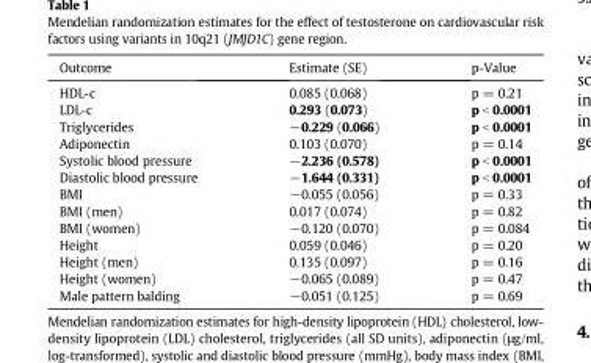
<table><thead><tr><td>Outcome</td><td>Estimate (SE)</td><td>p-Value</td></tr></thead><tbody><tr><td>HDL-c</td><td>0.085 (0.068)</td><td>p = 0.21</td></tr><tr><td>LDL-c</td><td>0.293 (0.073)</td><td>p &lt; 0.0001</td></tr><tr><td>Triglycerides</td><td>−0.229 (0.066)</td><td>p &lt; 0.0001</td></tr><tr><td>Adiponectin</td><td>0.103 (0.070)</td><td>p = 0.14</td></tr><tr><td>Systolic blood pressure</td><td>−2.236 (0.578)</td><td>p &lt; 0.0001</td></tr><tr><td>Diastolic blood pressure</td><td>−1.644 (0.331)</td><td>p &lt; 0.0001</td></tr><tr><td>BMI</td><td>−0.055 (0.056)</td><td>p = 0.33</td></tr><tr><td>BMI (men)</td><td>0.017 (0.074)</td><td>p = 0.82</td></tr><tr><td>BMI (women)</td><td>−0.120 (0.070)</td><td>p = 0.084</td></tr><tr><td>Height</td><td>0.059 (0.046)</td><td>p = 0.20</td></tr><tr><td>Height (men)</td><td>0.135 (0.097)</td><td>p = 0.16</td></tr><tr><td>Height (women)</td><td>−0.065 (0.089)</td><td>p = 0.47</td></tr><tr><td>Male pattern balding</td><td>−0.051 (0.125)</td><td>p = 0.69</td></tr></tbody></table>